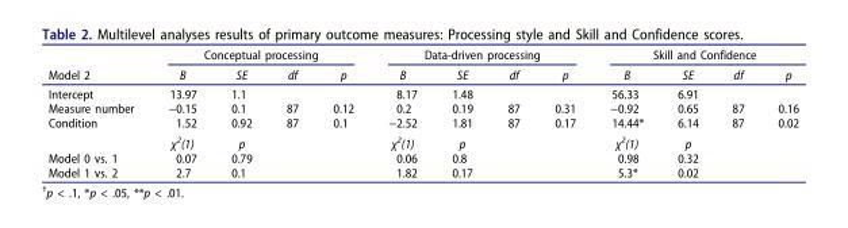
<table><thead><tr><td rowspan="2">Model 2</td><td colspan="4">Conceptual processing</td><td colspan="4">Data-driven processing</td><td colspan="4">Skill and Confidence</td></tr><tr><td>B</td><td>SE</td><td>df</td><td>p</td><td>B</td><td>SE</td><td>df</td><td>p</td><td>B</td><td>SE</td><td>df</td><td>p</td></tr></thead><tbody><tr><td>Intercept</td><td>13.97</td><td>1.1</td><td></td><td></td><td>8.17</td><td>1.48</td><td></td><td></td><td>56.33</td><td>6.91</td><td></td><td></td></tr><tr><td>Measure number</td><td>−0.15</td><td>0.1</td><td>87</td><td>0.12</td><td>0.2</td><td>0.19</td><td>87</td><td>0.31</td><td>−0.92</td><td>0.65</td><td>87</td><td>0.16</td></tr><tr><td rowspan="2">Condition</td><td>1.52</td><td>0.92</td><td>87</td><td>0.1</td><td>−2.52</td><td>1.81</td><td>87</td><td>0.17</td><td>14.44*</td><td>6.14</td><td>87</td><td>0.02</td></tr><tr><td>χ<sup>2</sup>(1)</td><td>p</td><td></td><td></td><td>χ<sup>2</sup>(1)</td><td>p</td><td></td><td></td><td>χ<sup>2</sup>(1)</td><td>p</td><td></td><td></td></tr><tr><td>Model 0 vs. 1</td><td>0.07</td><td>0.79</td><td></td><td></td><td>0.06</td><td>0.8</td><td></td><td></td><td>0.98</td><td>0.32</td><td></td><td></td></tr><tr><td>Model 1 vs. 2</td><td>2.7</td><td>0.1</td><td></td><td></td><td>1.82</td><td>0.17</td><td></td><td></td><td>5.3*</td><td>0.02</td><td></td><td></td></tr></tbody></table>